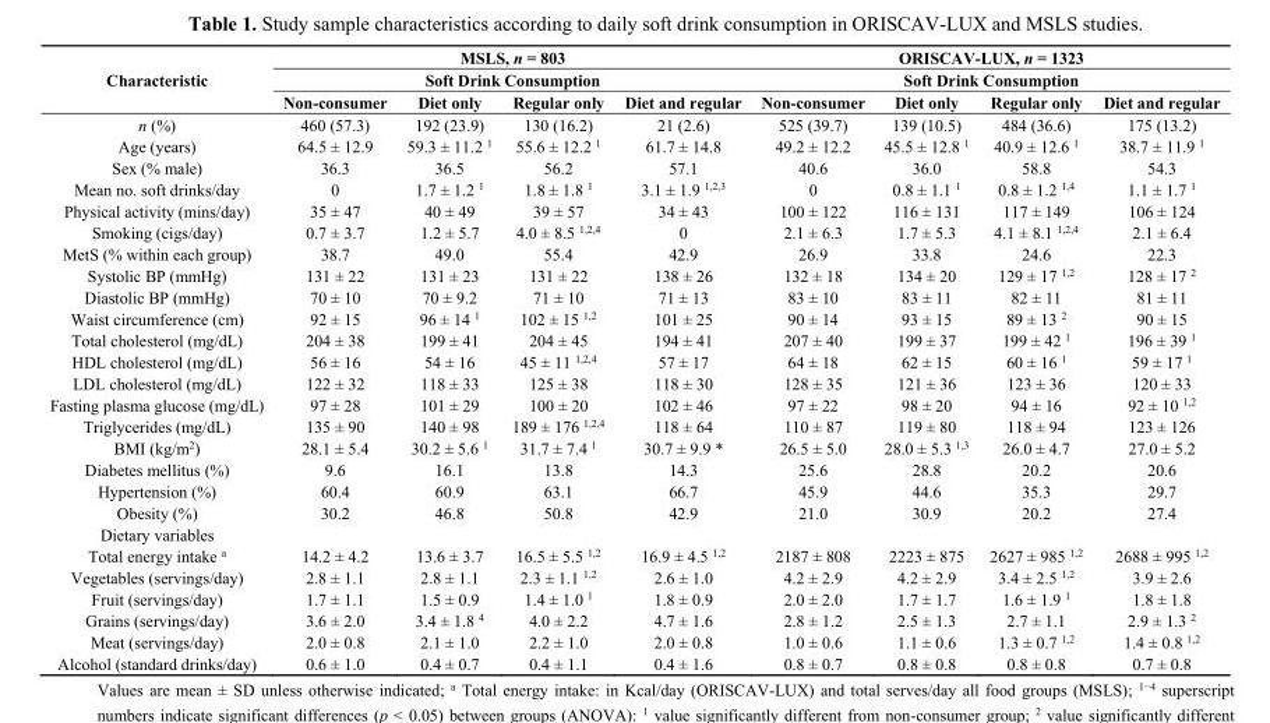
<table><thead><tr><td rowspan="3">Characteristic</td><td rowspan="2" colspan="4">MSLS, n = 803 Soft Drink Consumption</td><td rowspan="2" colspan="4">ORISCAV-LUX, n = 1323 Soft Drink Consumption</td></tr><tr></tr><tr><td>Non-consumer</td><td>Diet only</td><td>Regular only</td><td>Diet and regular</td><td>Non-consumer</td><td>Diet only</td><td>Regular only</td><td>Diet and regular</td></tr></thead><tbody><tr><td>n (%)</td><td>460 (57.3)</td><td>192 (23.9)</td><td>130 (16.2)</td><td>21 (2.6)</td><td>525 (39.7)</td><td>139 (10.5)</td><td>484 (36.6)</td><td>175 (13.2)</td></tr><tr><td>Age (years)</td><td>64.5 ± 12.9</td><td>59.3 ± 11.2 <sup>1</sup></td><td>55.6 ± 12.2 <sup>1</sup></td><td>61.7 ± 14.8</td><td>49.2 ± 12.2</td><td>45.5 ± 12.8 <sup>1</sup></td><td>40.9 ± 12.6 <sup>1</sup></td><td>38.7 ± 11.9 <sup>1</sup></td></tr><tr><td>Sex (% male)</td><td>36.3</td><td>36.5</td><td>56.2</td><td>57.1</td><td>40.6</td><td>36.0</td><td>58.8</td><td>54.3</td></tr><tr><td>Mean no. soft drinks/day</td><td>0</td><td>1.7 ± 1.2 <sup>1</sup></td><td>1.8 ± 1.8 <sup>1</sup></td><td>3.1 ± 1.9 <sup>1,2,3</sup></td><td>0</td><td>0.8 ± 1.1 <sup>1</sup></td><td>0.8 ± 1.2 <sup>1,4</sup></td><td>1.1 ± 1.7 <sup>1</sup></td></tr><tr><td>Physical activity (mins/day)</td><td>35 ± 47</td><td>40 ± 49</td><td>39 ± 57</td><td>34 ± 43</td><td>100 ± 122</td><td>116 ± 131</td><td>117 ± 149</td><td>106 ± 124</td></tr><tr><td>Smoking (cigs/day)</td><td>0.7 ± 3.7</td><td>1.2 ± 5.7</td><td>4.0 ± 8.5 <sup>1,2,4</sup></td><td>0</td><td>2.1 ± 6.3</td><td>1.7 ± 5.3</td><td>4.1 ± 8.1 <sup>1,2,4</sup></td><td>2.1 ± 6.4</td></tr><tr><td>MetS (% within each group)</td><td>38.7</td><td>49.0</td><td>55.4</td><td>42.9</td><td>26.9</td><td>33.8</td><td>24.6</td><td>22.3</td></tr><tr><td>Systolic BP (mmHg)</td><td>131 ± 22</td><td>131 ± 23</td><td>131 ± 22</td><td>138 ± 26</td><td>132 ± 18</td><td>134 ± 20</td><td>129 ± 17 <sup>1,2</sup></td><td>128 ± 17 <sup>2</sup></td></tr><tr><td>Diastolic BP (mmHg)</td><td>70 ± 10</td><td>70 ± 9.2</td><td>71 ± 10</td><td>71 ± 13</td><td>83 ± 10</td><td>83 ± 11</td><td>82 ± 11</td><td>81 ± 11</td></tr><tr><td>Waist circumference (cm)</td><td>92 ± 15</td><td>96 ± 14 <sup>1</sup></td><td>102 ± 15 <sup>1,2</sup></td><td>101 ± 25</td><td>90 ± 14</td><td>93 ± 15</td><td>89 ± 13 <sup>2</sup></td><td>90 ± 15</td></tr><tr><td>Total cholesterol (mg/dL)</td><td>204 ± 38</td><td>199 ± 41</td><td>204 ± 45</td><td>194 ± 41</td><td>207 ± 40</td><td>199 ± 37</td><td>199 ± 42 <sup>1</sup></td><td>196 ± 39 <sup>1</sup></td></tr><tr><td>HDL cholesterol (mg/dL)</td><td>56 ± 16</td><td>54 ± 16</td><td>45 ± 11 <sup>1,2,4</sup></td><td>57 ± 17</td><td>64 ± 18</td><td>62 ± 15</td><td>60 ± 16 <sup>1</sup></td><td>59 ± 17 <sup>1</sup></td></tr><tr><td>LDL cholesterol (mg/dL)</td><td>122 ± 32</td><td>118 ± 33</td><td>125 ± 38</td><td>118 ± 30</td><td>128 ± 35</td><td>121 ± 36</td><td>123 ± 36</td><td>120 ± 33</td></tr><tr><td>Fasting plasma glucose (mg/dL)</td><td>97 ± 28</td><td>101 ± 29</td><td>100 ± 20</td><td>102 ± 46</td><td>97 ± 22</td><td>98 ± 20</td><td>94 ± 16</td><td>92 ± 10 <sup>1,2</sup></td></tr><tr><td>Triglycerides (mg/dL)</td><td>135 ± 90</td><td>140 ± 98</td><td>189 ± 176 <sup>1,2,4</sup></td><td>118 ± 64</td><td>110 ± 87</td><td>119 ± 80</td><td>118 ± 94</td><td>123 ± 126</td></tr><tr><td>BMI (kg/m<sup>2</sup>)</td><td>28.1 ± 5.4</td><td>30.2 ± 5.6 <sup>1</sup></td><td>31.7 ± 7.4 <sup>1</sup></td><td>30.7 ± 9.9 *</td><td>26.5 ± 5.0</td><td>28.0 ± 5.3 <sup>1,3</sup></td><td>26.0 ± 4.7</td><td>27.0 ± 5.2</td></tr><tr><td>Diabetes mellitus (%)</td><td>9.6</td><td>16.1</td><td>13.8</td><td>14.3</td><td>25.6</td><td>28.8</td><td>20.2</td><td>20.6</td></tr><tr><td>Hypertension (%)</td><td>60.4</td><td>60.9</td><td>63.1</td><td>66.7</td><td>45.9</td><td>44.6</td><td>35.3</td><td>29.7</td></tr><tr><td>Obesity (%)</td><td>30.2</td><td>46.8</td><td>50.8</td><td>42.9</td><td>21.0</td><td>30.9</td><td>20.2</td><td>27.4</td></tr><tr><td colspan="9">Dietary variables</td></tr><tr><td>Total energy intake <sup>a</sup></td><td>14.2 ± 4.2</td><td>13.6 ± 3.7</td><td>16.5 ± 5.5 <sup>1,2</sup></td><td>16.9 ± 4.5 <sup>1,2</sup></td><td>2187 ± 808</td><td>2223 ± 875</td><td>2627 ± 985 <sup>1,2</sup></td><td>2688 ± 995 <sup>1,2</sup></td></tr><tr><td>Vegetables (servings/day)</td><td>2.8 ± 1.1</td><td>2.8 ± 1.1</td><td>2.3 ± 1.1 <sup>1,2</sup></td><td>2.6 ± 1.0</td><td>4.2 ± 2.9</td><td>4.2 ± 2.9</td><td>3.4 ± 2.5 <sup>1,2</sup></td><td>3.9 ± 2.6</td></tr><tr><td>Fruit (servings/day)</td><td>1.7 ± 1.1</td><td>1.5 ± 0.9</td><td>1.4 ± 1.0 <sup>1</sup></td><td>1.8 ± 0.9</td><td>2.0 ± 2.0</td><td>1.7 ± 1.7</td><td>1.6 ± 1.9 <sup>1</sup></td><td>1.8 ± 1.8</td></tr><tr><td>Grains (servings/day)</td><td>3.6 ± 2.0</td><td>3.4 ± 1.8 <sup>4</sup></td><td>4.0 ± 2.2</td><td>4.7 ± 1.6</td><td>2.8 ± 1.2</td><td>2.5 ± 1.3</td><td>2.7 ± 1.1</td><td>2.9 ± 1.3 <sup>2</sup></td></tr><tr><td>Meat (servings/day)</td><td>2.0 ± 0.8</td><td>2.1 ± 1.0</td><td>2.2 ± 1.0</td><td>2.0 ± 0.8</td><td>1.0 ± 0.6</td><td>1.1 ± 0.6</td><td>1.3 ± 0.7 <sup>1,2</sup></td><td>1.4 ± 0.8 <sup>1,2</sup></td></tr><tr><td>Alcohol (standard drinks/day)</td><td>0.6 ± 1.0</td><td>0.4 ± 0.7</td><td>0.4 ± 1.1</td><td>0.4 ± 1.6</td><td>0.8 ± 0.7</td><td>0.8 ± 0.8</td><td>0.8 ± 0.8</td><td>0.7 ± 0.8</td></tr></tbody></table>